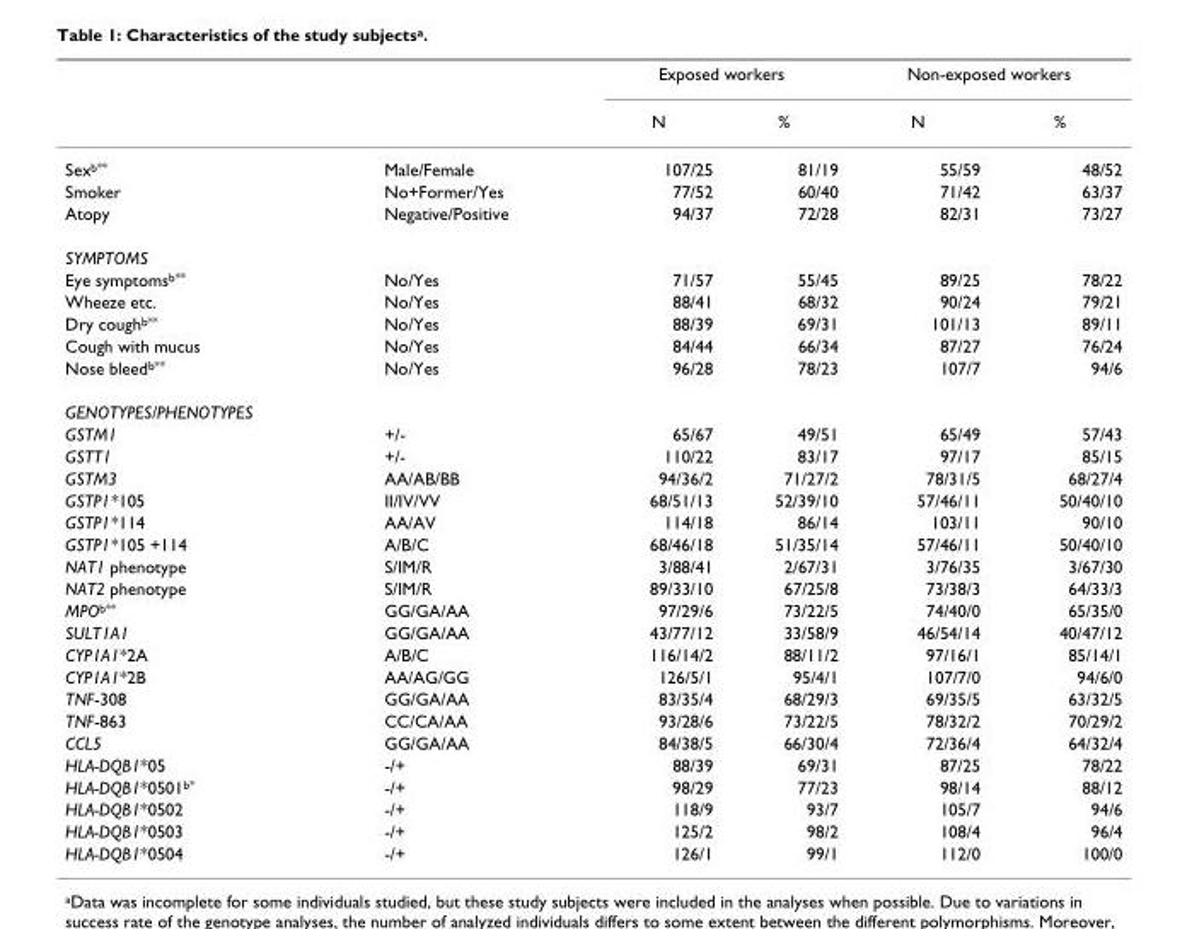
<table><thead><tr><td rowspan="2"></td><td rowspan="2"></td><td colspan="2">Exposed workers</td><td colspan="2">Non-exposed workers</td></tr><tr><td>N</td><td>%</td><td>N</td><td>%</td></tr></thead><tbody><tr><td>Sex<sup>b**</sup></td><td>Male/Female</td><td>107/25</td><td>81/19</td><td>55/59</td><td>48/52</td></tr><tr><td>Smoker</td><td>No+Former/Yes</td><td>77/52</td><td>60/40</td><td>71/42</td><td>63/37</td></tr><tr><td>Atopy</td><td>Negative/Positive</td><td>94/37</td><td>72/28</td><td>82/31</td><td>73/27</td></tr><tr><td colspan="6">SYMPTOMS</td></tr><tr><td>Eye symptoms<sup>b**</sup></td><td>No/Yes</td><td>71/57</td><td>55/45</td><td>89/25</td><td>78/22</td></tr><tr><td>Wheeze etc.</td><td>No/Yes</td><td>88/41</td><td>68/32</td><td>90/24</td><td>79/21</td></tr><tr><td>Dry cough<sup>b**</sup></td><td>No/Yes</td><td>88/39</td><td>69/31</td><td>101/13</td><td>89/11</td></tr><tr><td>Cough with mucus</td><td>No/Yes</td><td>84/44</td><td>66/34</td><td>87/27</td><td>76/24</td></tr><tr><td>Nose bleed<sup>b**</sup></td><td>No/Yes</td><td>96/28</td><td>78/23</td><td>107/7</td><td>94/6</td></tr><tr><td colspan="6">GENOTYPES/PHENOTYPES</td></tr><tr><td>GSTM1</td><td>+/-</td><td>65/67</td><td>49/51</td><td>65/49</td><td>57/43</td></tr><tr><td>GSTT1</td><td>+/-</td><td>110/22</td><td>83/17</td><td>97/17</td><td>85/15</td></tr><tr><td>GSTM3</td><td>AA/AB/BB</td><td>94/36/2</td><td>71/27/2</td><td>78/31/5</td><td>68/27/4</td></tr><tr><td>GSTP1*105</td><td>II/IV/VV</td><td>68/51/13</td><td>52/39/10</td><td>57/46/11</td><td>50/40/10</td></tr><tr><td>GSTP1*114</td><td>AA/AV</td><td>114/18</td><td>86/14</td><td>103/11</td><td>90/10</td></tr><tr><td>GSTP1*105 +114</td><td>A/B/C</td><td>68/46/18</td><td>51/35/14</td><td>57/46/11</td><td>50/40/10</td></tr><tr><td>NAT1 phenotype</td><td>S/IM/R</td><td>3/88/41</td><td>2/67/31</td><td>3/76/35</td><td>3/67/30</td></tr><tr><td>NAT2 phenotype</td><td>S/IM/R</td><td>89/33/10</td><td>67/25/8</td><td>73/38/3</td><td>64/33/3</td></tr><tr><td>MPO<sup>b**</sup></td><td>GG/GA/AA</td><td>97/29/6</td><td>73/22/5</td><td>74/40/0</td><td>65/35/0</td></tr><tr><td>SULT1A1</td><td>GG/GA/AA</td><td>43/77/12</td><td>33/58/9</td><td>46/54/14</td><td>40/47/12</td></tr><tr><td>CYP1A1*2A</td><td>A/B/C</td><td>116/14/2</td><td>88/11/2</td><td>97/16/1</td><td>85/14/1</td></tr><tr><td>CYP1A1*2B</td><td>AA/AG/GG</td><td>126/5/1</td><td>95/4/1</td><td>107/7/0</td><td>94/6/0</td></tr><tr><td>TNF-308</td><td>GG/GA/AA</td><td>83/35/4</td><td>68/29/3</td><td>69/35/5</td><td>63/32/5</td></tr><tr><td>TNF-863</td><td>CC/CA/AA</td><td>93/28/6</td><td>73/22/5</td><td>78/32/2</td><td>70/29/2</td></tr><tr><td>CCL5</td><td>GG/GA/AA</td><td>84/38/5</td><td>66/30/4</td><td>72/36/4</td><td>64/32/4</td></tr><tr><td>HLA-DQB1*05</td><td>-/+</td><td>88/39</td><td>69/31</td><td>87/25</td><td>78/22</td></tr><tr><td>HLA-DQB1*0501<sup>b*</sup></td><td>-/+</td><td>98/29</td><td>77/23</td><td>98/14</td><td>88/12</td></tr><tr><td>HLA-DQB1*0502</td><td>-/+</td><td>118/9</td><td>93/7</td><td>105/7</td><td>94/6</td></tr><tr><td>HLA-DQB1*0503</td><td>-/+</td><td>125/2</td><td>98/2</td><td>108/4</td><td>96/4</td></tr><tr><td>HLA-DQB1*0504</td><td>-/+</td><td>126/1</td><td>99/1</td><td>112/0</td><td>100/0</td></tr></tbody></table>